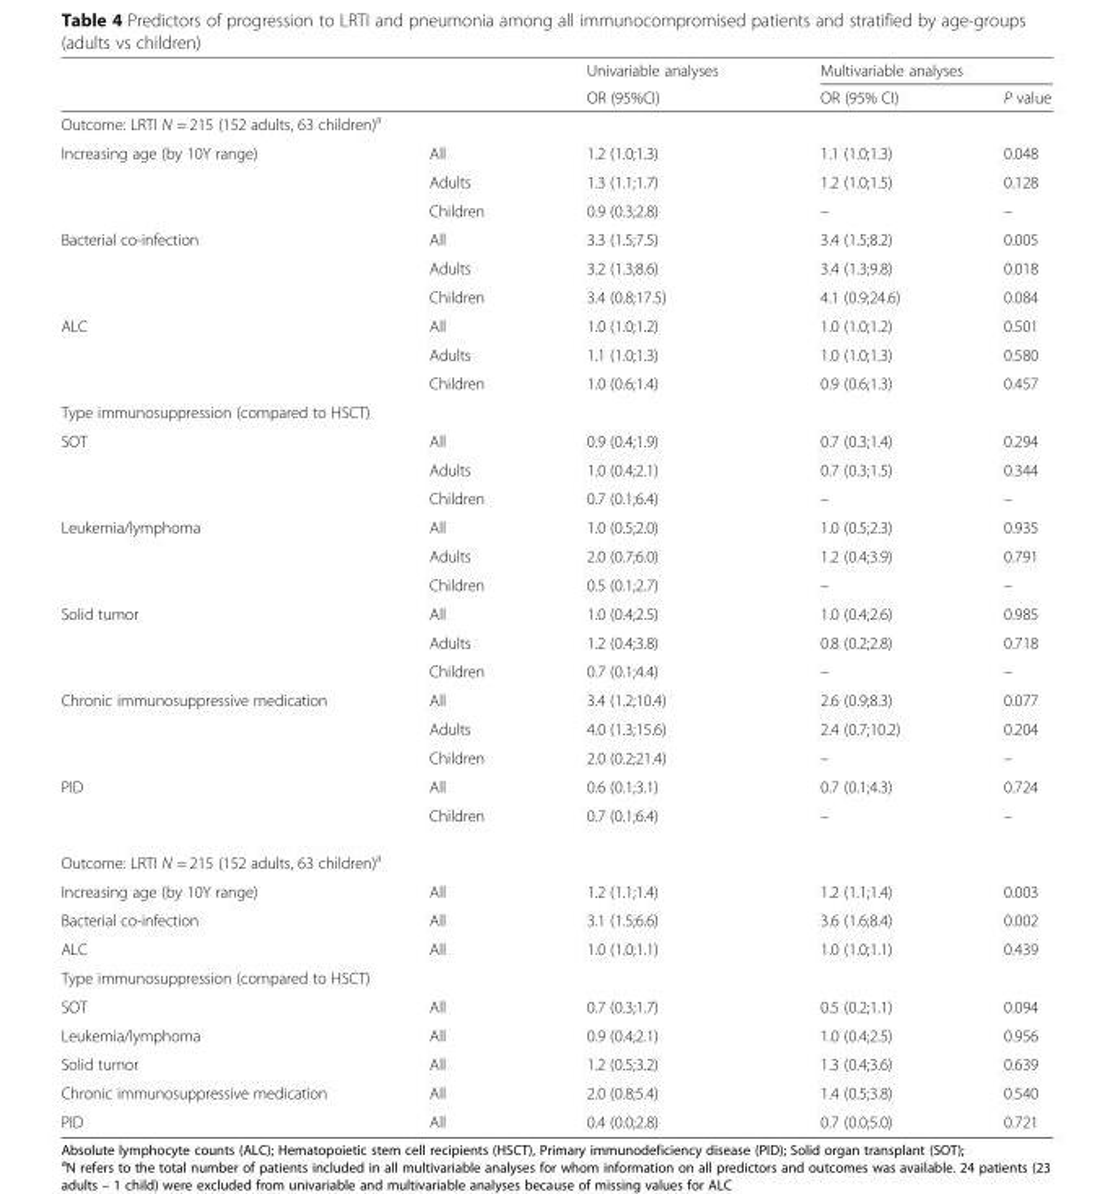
<table><thead><tr><td rowspan="2"></td><td rowspan="2"></td><td rowspan="2">Univariable analyses OR (95%CI)</td><td colspan="2">Multivariable analyses</td></tr><tr><td>OR (95% CI)</td><td>P value</td></tr></thead><tbody><tr><td colspan="5">Outcome: LRTI N = 215 (152 adults, 63 children)<sup>a</sup></td></tr><tr><td rowspan="3">Increasing age (by 10Y range)</td><td>All</td><td>1.2 (1.0;1.3)</td><td>1.1 (1.0;1.3)</td><td>0.048</td></tr><tr><td>Adults</td><td>1.3 (1.1;1.7)</td><td>1.2 (1.0;1.5)</td><td>0.128</td></tr><tr><td>Children</td><td>0.9 (0.3;2.8)</td><td>–</td><td>–</td></tr><tr><td rowspan="3">Bacterial co-infection</td><td>All</td><td>3.3 (1.5;7.5)</td><td>3.4 (1.5;8.2)</td><td>0.005</td></tr><tr><td>Adults</td><td>3.2 (1.3;8.6)</td><td>3.4 (1.3;9.8)</td><td>0.018</td></tr><tr><td>Children</td><td>3.4 (0.8;17.5)</td><td>4.1 (0.9;24.6)</td><td>0.084</td></tr><tr><td rowspan="3">ALC</td><td>All</td><td>1.0 (1.0;1.2)</td><td>1.0 (1.0;1.2)</td><td>0.501</td></tr><tr><td>Adults</td><td>1.1 (1.0;1.3)</td><td>1.0 (1.0;1.3)</td><td>0.580</td></tr><tr><td>Children</td><td>1.0 (0.6;1.4)</td><td>0.9 (0.6;1.3)</td><td>0.457</td></tr><tr><td colspan="5">Type immunosuppression (compared to HSCT)</td></tr><tr><td rowspan="3">SOT</td><td>All</td><td>0.9 (0.4;1.9)</td><td>0.7 (0.3;1.4)</td><td>0.294</td></tr><tr><td>Adults</td><td>1.0 (0.4;2.1)</td><td>0.7 (0.3;1.5)</td><td>0.344</td></tr><tr><td>Children</td><td>0.7 (0.1;6.4)</td><td>–</td><td>–</td></tr><tr><td rowspan="3">Leukemia/lymphoma</td><td>All</td><td>1.0 (0.5;2.0)</td><td>1.0 (0.5;2.3)</td><td>0.935</td></tr><tr><td>Adults</td><td>2.0 (0.7;6.0)</td><td>1.2 (0.4;3.9)</td><td>0.791</td></tr><tr><td>Children</td><td>0.5 (0.1;2.7)</td><td>–</td><td>–</td></tr><tr><td rowspan="3">Solid tumor</td><td>All</td><td>1.0 (0.4;2.5)</td><td>1.0 (0.4;2.6)</td><td>0.985</td></tr><tr><td>Adults</td><td>1.2 (0.4;3.8)</td><td>0.8 (0.2;2.8)</td><td>0.718</td></tr><tr><td>Children</td><td>0.7 (0.1;4.4)</td><td>–</td><td>–</td></tr><tr><td rowspan="3">Chronic immunosuppressive medication</td><td>All</td><td>3.4 (1.2;10.4)</td><td>2.6 (0.9;8.3)</td><td>0.077</td></tr><tr><td>Adults</td><td>4.0 (1.3;15.6)</td><td>2.4 (0.7;10.2)</td><td>0.204</td></tr><tr><td>Children</td><td>2.0 (0.2;21.4)</td><td>–</td><td>–</td></tr><tr><td rowspan="2">PID</td><td>All</td><td>0.6 (0.1;3.1)</td><td>0.7 (0.1;4.3)</td><td>0.724</td></tr><tr><td>Children</td><td>0.7 (0.1;6.4)</td><td>–</td><td>–</td></tr><tr><td colspan="5">Outcome: LRTI N = 215 (152 adults, 63 children)<sup>a</sup></td></tr><tr><td>Increasing age (by 10Y range)</td><td>All</td><td>1.2 (1.1;1.4)</td><td>1.2 (1.1;1.4)</td><td>0.003</td></tr><tr><td>Bacterial co-infection</td><td>All</td><td>3.1 (1.5;6.6)</td><td>3.6 (1.6;8.4)</td><td>0.002</td></tr><tr><td>ALC</td><td>All</td><td>1.0 (1.0;1.1)</td><td>1.0 (1.0;1.1)</td><td>0.439</td></tr><tr><td colspan="5">Type immunosuppression (compared to HSCT)</td></tr><tr><td>SOT</td><td>All</td><td>0.7 (0.3;1.7)</td><td>0.5 (0.2;1.1)</td><td>0.094</td></tr><tr><td>Leukemia/lymphoma</td><td>All</td><td>0.9 (0.4;2.1)</td><td>1.0 (0.4;2.5)</td><td>0.956</td></tr><tr><td>Solid tumor</td><td>All</td><td>1.2 (0.5;3.2)</td><td>1.3 (0.4;3.6)</td><td>0.639</td></tr><tr><td>Chronic immunosuppressive medication</td><td>All</td><td>2.0 (0.8;5.4)</td><td>1.4 (0.5;3.8)</td><td>0.540</td></tr><tr><td>PID</td><td>All</td><td>0.4 (0.0;2.8)</td><td>0.7 (0.0;5.0)</td><td>0.721</td></tr></tbody></table>